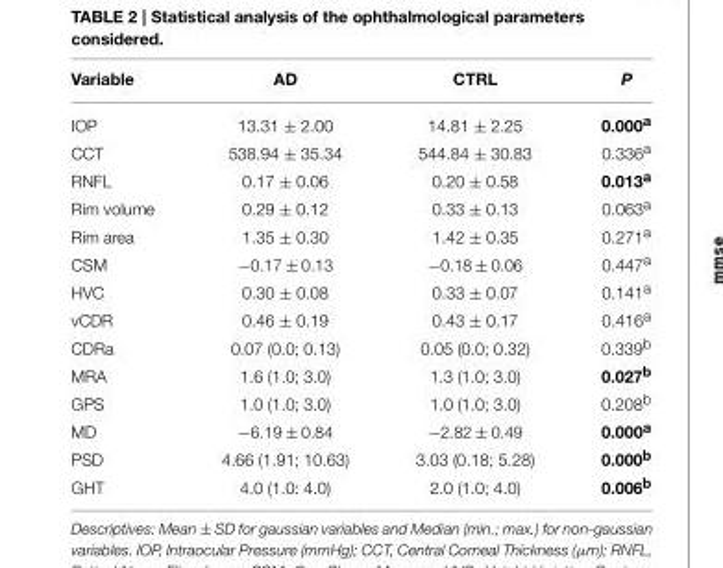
<table><thead><tr><td>Variable</td><td>AD</td><td>CTRL</td><td>P</td></tr></thead><tbody><tr><td>IOP</td><td>13.31 ± 2.00</td><td>14.81 ± 2.25</td><td>0.000<sup>a</sup></td></tr><tr><td>CCT</td><td>538.94 ± 35.34</td><td>544.84 ± 30.83</td><td>0.336<sup>a</sup></td></tr><tr><td>RNFL</td><td>0.17 ± 0.06</td><td>0.20 ± 0.58</td><td>0.013<sup>a</sup></td></tr><tr><td>Rim volume</td><td>0.29 ± 0.12</td><td>0.33 ± 0.13</td><td>0.063<sup>a</sup></td></tr><tr><td>Rim area</td><td>1.35 ± 0.30</td><td>1.42 ± 0.35</td><td>0.271<sup>a</sup></td></tr><tr><td>CSM</td><td>−0.17 ± 0.13</td><td>−0.18 ± 0.06</td><td>0.447<sup>a</sup></td></tr><tr><td>HVC</td><td>0.30 ± 0.08</td><td>0.33 ± 0.07</td><td>0.141<sup>a</sup></td></tr><tr><td>vCDR</td><td>0.46 ± 0.19</td><td>0.43 ± 0.17</td><td>0.416<sup>a</sup></td></tr><tr><td>CDRa</td><td>0.07 (0.0; 0.13)</td><td>0.05 (0.0; 0.32)</td><td>0.339<sup>b</sup></td></tr><tr><td>MRA</td><td>1.6 (1.0; 3.0)</td><td>1.3 (1.0; 3.0)</td><td>0.027<sup>b</sup></td></tr><tr><td>GPS</td><td>1.0 (1.0; 3.0)</td><td>1.0 (1.0; 3.0)</td><td>0.208<sup>b</sup></td></tr><tr><td>MD</td><td>−6.19 ± 0.84</td><td>−2.82 ± 0.49</td><td>0.000<sup>a</sup></td></tr><tr><td>PSD</td><td>4.66 (1.91; 10.63)</td><td>3.03 (0.18; 5.28)</td><td>0.000<sup>b</sup></td></tr><tr><td>GHT</td><td>4.0 (1.0: 4.0)</td><td>2.0 (1.0; 4.0)</td><td>0.006<sup>b</sup></td></tr></tbody></table>